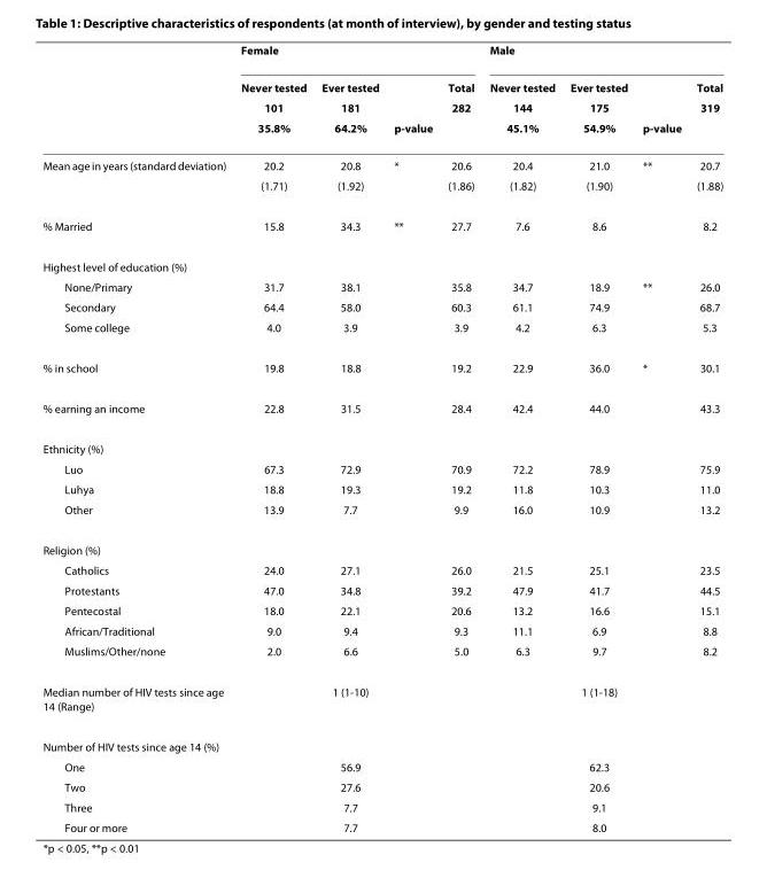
<table><thead><tr><td rowspan="4"></td><td colspan="4">Female</td><td colspan="4">Male</td></tr><tr><td rowspan="3">Never tested 101 35.8%</td><td rowspan="3">Ever tested 181 64.2%</td><td rowspan="3">p-value</td><td rowspan="3">Total 282</td><td rowspan="3">Never tested 144 45.1%</td><td rowspan="3">Ever tested 175 54.9%</td><td rowspan="3">p-value</td><td rowspan="3">Total 319</td></tr><tr></tr><tr></tr></thead><tbody><tr><td rowspan="2">Mean age in years (standard deviation)</td><td>20.2</td><td>20.8</td><td>*</td><td>20.6</td><td>20.4</td><td>21.0</td><td>**</td><td>20.7</td></tr><tr><td>(1.71)</td><td>(1.92)</td><td></td><td>(1.86)</td><td>(1.82)</td><td>(1.90)</td><td></td><td>(1.88)</td></tr><tr><td>% Married</td><td>15.8</td><td>34.3</td><td>**</td><td>27.7</td><td>7.6</td><td>8.6</td><td></td><td>8.2</td></tr><tr><td colspan="9">Highest level of education (%)</td></tr><tr><td>None/Primary</td><td>31.7</td><td>38.1</td><td></td><td>35.8</td><td>34.7</td><td>18.9</td><td>**</td><td>26.0</td></tr><tr><td>Secondary</td><td>64.4</td><td>58.0</td><td></td><td>60.3</td><td>61.1</td><td>74.9</td><td></td><td>68.7</td></tr><tr><td>Some college</td><td>4.0</td><td>3.9</td><td></td><td>3.9</td><td>4.2</td><td>6.3</td><td></td><td>5.3</td></tr><tr><td>% in school</td><td>19.8</td><td>18.8</td><td></td><td>19.2</td><td>22.9</td><td>36.0</td><td>*</td><td>30.1</td></tr><tr><td>% earning an income</td><td>22.8</td><td>31.5</td><td></td><td>28.4</td><td>42.4</td><td>44.0</td><td></td><td>43.3</td></tr><tr><td colspan="9">Ethnicity (%)</td></tr><tr><td>Luo</td><td>67.3</td><td>72.9</td><td></td><td>70.9</td><td>72.2</td><td>78.9</td><td></td><td>75.9</td></tr><tr><td>Luhya</td><td>18.8</td><td>19.3</td><td></td><td>19.2</td><td>11.8</td><td>10.3</td><td></td><td>11.0</td></tr><tr><td>Other</td><td>13.9</td><td>7.7</td><td></td><td>9.9</td><td>16.0</td><td>10.9</td><td></td><td>13.2</td></tr><tr><td colspan="9">Religion (%)</td></tr><tr><td>Catholics</td><td>24.0</td><td>27.1</td><td></td><td>26.0</td><td>21.5</td><td>25.1</td><td></td><td>23.5</td></tr><tr><td>Protestants</td><td>47.0</td><td>34.8</td><td></td><td>39.2</td><td>47.9</td><td>41.7</td><td></td><td>44.5</td></tr><tr><td>Pentecostal</td><td>18.0</td><td>22.1</td><td></td><td>20.6</td><td>13.2</td><td>16.6</td><td></td><td>15.1</td></tr><tr><td>African/Traditional</td><td>9.0</td><td>9.4</td><td></td><td>9.3</td><td>11.1</td><td>6.9</td><td></td><td>8.8</td></tr><tr><td>Muslims/Other/none</td><td>2.0</td><td>6.6</td><td></td><td>5.0</td><td>6.3</td><td>9.7</td><td></td><td>8.2</td></tr><tr><td>Median number of HIV tests since age 14 (Range)</td><td></td><td>1 (1-10)</td><td></td><td></td><td></td><td>1 (1-18)</td><td></td><td></td></tr><tr><td colspan="9">Number of HIV tests since age 14 (%)</td></tr><tr><td>One</td><td></td><td>56.9</td><td></td><td></td><td></td><td>62.3</td><td></td><td></td></tr><tr><td>Two</td><td></td><td>27.6</td><td></td><td></td><td></td><td>20.6</td><td></td><td></td></tr><tr><td>Three</td><td></td><td>7.7</td><td></td><td></td><td></td><td>9.1</td><td></td><td></td></tr><tr><td>Four or more</td><td></td><td>7.7</td><td></td><td></td><td></td><td>8.0</td><td></td><td></td></tr></tbody></table>